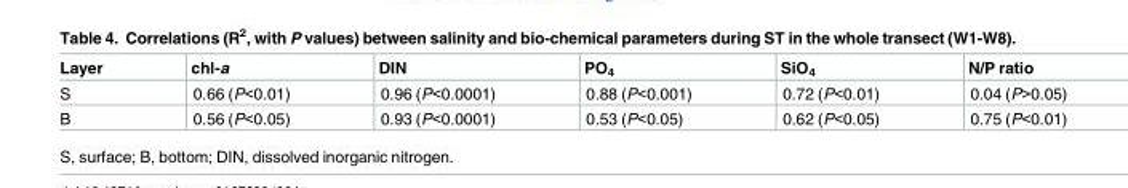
<table><thead><tr><td>Layer</td><td>chl-a</td><td>DIN</td><td>PO<sub>4</sub></td><td>SiO<sub>4</sub></td><td>N/P ratio</td></tr></thead><tbody><tr><td>S</td><td>0.66 (P&lt;0.01)</td><td>0.96 (P&lt;0.0001)</td><td>0.88 (P&lt;0.001)</td><td>0.72 (P&lt;0.01)</td><td>0.04 (P&gt;0.05)</td></tr><tr><td>B</td><td>0.56 (P&lt;0.05)</td><td>0.93 (P&lt;0.0001)</td><td>0.53 (P&lt;0.05)</td><td>0.62 (P&lt;0.05)</td><td>0.75 (P&lt;0.01)</td></tr></tbody></table>